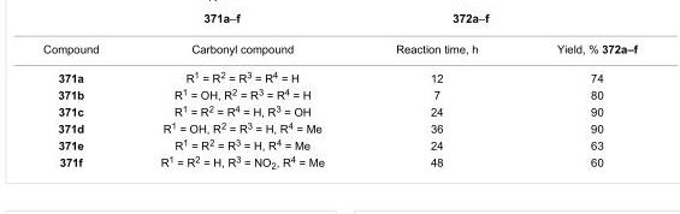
<table><tbody><tr><td>Compound</td><td>Carbonyl compound</td><td>Reaction time, h</td><td>Yield, % 372a–f</td></tr><tr><td>371a</td><td>R<sup>1</sup> = R<sup>2</sup> = R<sup>3</sup> = R<sup>4</sup> = H</td><td>12</td><td>74</td></tr><tr><td>371b</td><td>R<sup>1</sup> = OH, R<sup>2</sup> = R<sup>3</sup> = R<sup>4</sup> = H</td><td>7</td><td>80</td></tr><tr><td>371c</td><td>R<sup>1</sup> = R<sup>2</sup> = R<sup>4</sup> = H, R<sup>3</sup> = OH</td><td>24</td><td>90</td></tr><tr><td>371d</td><td>R<sup>1</sup> = OH, R<sup>2</sup> = R<sup>3</sup> = H, R<sup>4</sup> = Me</td><td>36</td><td>90</td></tr><tr><td>371e</td><td>R<sup>1</sup> = R<sup>2</sup> = R<sup>3</sup> = H, R<sup>4</sup> = Me</td><td>24</td><td>63</td></tr><tr><td>371f</td><td>R<sup>1</sup> = R<sup>2</sup> = H, R<sup>3</sup> = NO<sub>2</sub>, R<sup>4</sup> = Me</td><td>48</td><td>60</td></tr></tbody></table>